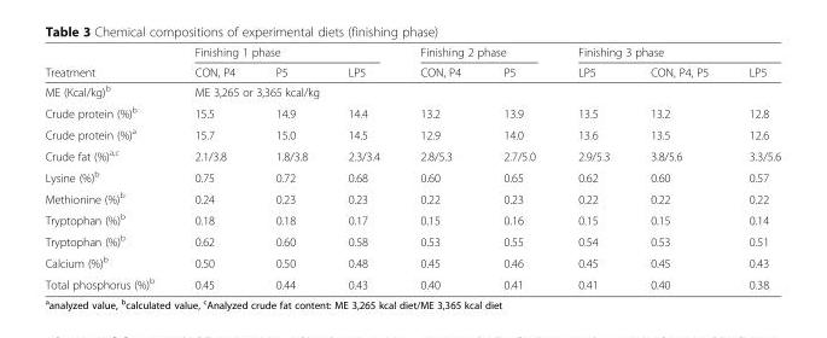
<table><thead><tr><td rowspan="2">Treatment</td><td colspan="3">Finishing 1 phase</td><td colspan="2">Finishing 2 phase</td><td colspan="3">Finishing 3 phase</td></tr><tr><td>CON, P4</td><td>P5</td><td>LP5</td><td>CON, P4</td><td>P5</td><td>LP5</td><td>CON, P4, P5</td><td>LP5</td></tr></thead><tbody><tr><td>ME (Kcal/kg)<sup>b</sup></td><td colspan="8">ME 3,265 or 3,365 kcal/kg</td></tr><tr><td>Crude protein (%)<sup>b</sup></td><td>15.5</td><td>14.9</td><td>14.4</td><td>13.2</td><td>13.9</td><td>13.5</td><td>13.2</td><td>12.8</td></tr><tr><td>Crude protein (%)<sup>a</sup></td><td>15.7</td><td>15.0</td><td>14.5</td><td>12.9</td><td>14.0</td><td>13.6</td><td>13.5</td><td>12.6</td></tr><tr><td>Crude fat (%)<sup>a,c</sup></td><td>2.1/3.8</td><td>1.8/3.8</td><td>2.3/3.4</td><td>2.8/5.3</td><td>2.7/5.0</td><td>2.9/5.3</td><td>3.8/5.6</td><td>3.3/5.6</td></tr><tr><td>Lysine (%)<sup>b</sup></td><td>0.75</td><td>0.72</td><td>0.68</td><td>0.60</td><td>0.65</td><td>0.62</td><td>0.60</td><td>0.57</td></tr><tr><td>Methionine (%)<sup>b</sup></td><td>0.24</td><td>0.23</td><td>0.23</td><td>0.22</td><td>0.23</td><td>0.22</td><td>0.22</td><td>0.22</td></tr><tr><td>Tryptophan (%)<sup>b</sup></td><td>0.18</td><td>0.18</td><td>0.17</td><td>0.15</td><td>0.16</td><td>0.15</td><td>0.15</td><td>0.14</td></tr><tr><td>Tryptophan (%)<sup>b</sup></td><td>0.62</td><td>0.60</td><td>0.58</td><td>0.53</td><td>0.55</td><td>0.54</td><td>0.53</td><td>0.51</td></tr><tr><td>Calcium (%)<sup>b</sup></td><td>0.50</td><td>0.50</td><td>0.48</td><td>0.45</td><td>0.46</td><td>0.45</td><td>0.45</td><td>0.43</td></tr><tr><td>Total phosphorus (%)<sup>b</sup></td><td>0.45</td><td>0.44</td><td>0.43</td><td>0.40</td><td>0.41</td><td>0.41</td><td>0.40</td><td>0.38</td></tr></tbody></table>